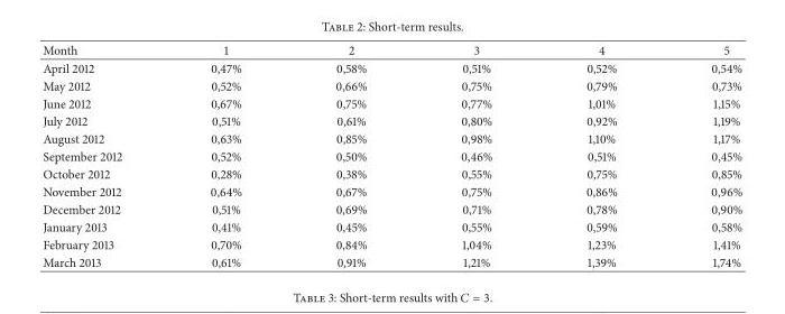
<table><thead><tr><td>Month</td><td>1</td><td>2</td><td>3</td><td>4</td><td>5</td></tr></thead><tbody><tr><td>April 2012</td><td>0,47%</td><td>0,58%</td><td>0,51%</td><td>0,52%</td><td>0,54%</td></tr><tr><td>May 2012</td><td>0,52%</td><td>0,66%</td><td>0,75%</td><td>0,79%</td><td>0,73%</td></tr><tr><td>June 2012</td><td>0,67%</td><td>0,75%</td><td>0,77%</td><td>1,01%</td><td>1,15%</td></tr><tr><td>July 2012</td><td>0,51%</td><td>0,61%</td><td>0,80%</td><td>0,92%</td><td>1,19%</td></tr><tr><td>August 2012</td><td>0,63%</td><td>0,85%</td><td>0,98%</td><td>1,10%</td><td>1,17%</td></tr><tr><td>September 2012</td><td>0,52%</td><td>0,50%</td><td>0,46%</td><td>0,51%</td><td>0,45%</td></tr><tr><td>October 2012</td><td>0,28%</td><td>0,38%</td><td>0,55%</td><td>0,75%</td><td>0,85%</td></tr><tr><td>November 2012</td><td>0,64%</td><td>0,67%</td><td>0,75%</td><td>0,86%</td><td>0,96%</td></tr><tr><td>December 2012</td><td>0,51%</td><td>0,69%</td><td>0,71%</td><td>0,78%</td><td>0,90%</td></tr><tr><td>January 2013</td><td>0,41%</td><td>0,45%</td><td>0,55%</td><td>0,59%</td><td>0,58%</td></tr><tr><td>February 2013</td><td>0,70%</td><td>0,84%</td><td>1,04%</td><td>1,23%</td><td>1,41%</td></tr><tr><td>March 2013</td><td>0,61%</td><td>0,91%</td><td>1,21%</td><td>1,39%</td><td>1,74%</td></tr></tbody></table>